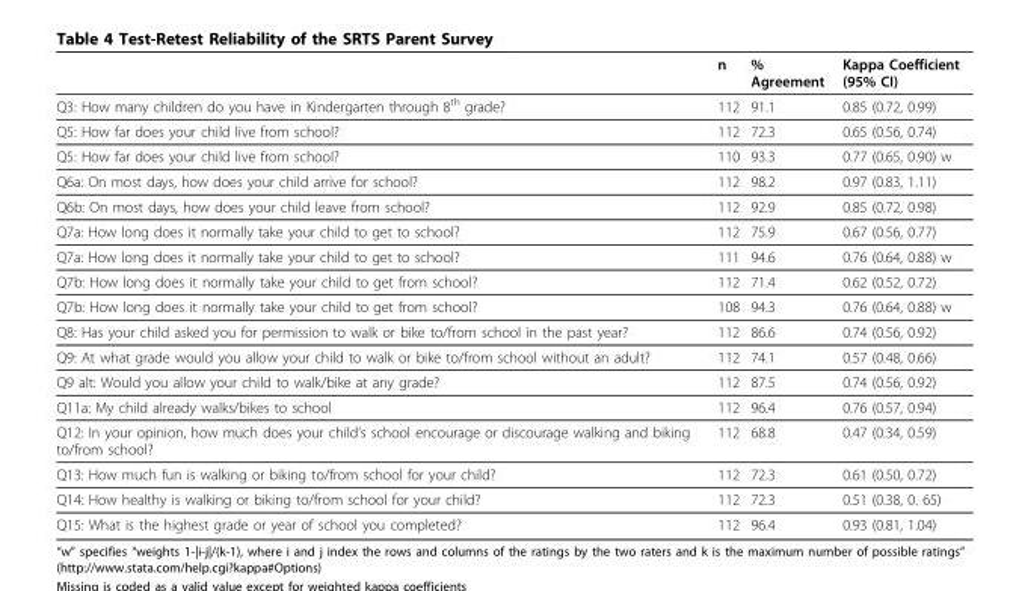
<table><thead><tr><td></td><td>n</td><td>% Agreement</td><td>Kappa Coefficient (95% CI)</td></tr></thead><tbody><tr><td>Q3: How many children do you have in Kindergarten through 8<sup>th</sup> grade?</td><td>112</td><td>91.1</td><td>0.85 (0.72, 0.99)</td></tr><tr><td>Q5: How far does your child live from school?</td><td>112</td><td>72.3</td><td>0.65 (0.56, 0.74)</td></tr><tr><td>Q5: How far does your child live from school?</td><td>110</td><td>93.3</td><td>0.77 (0.65, 0.90) w</td></tr><tr><td>Q6a: On most days, how does your child arrive for school?</td><td>112</td><td>98.2</td><td>0.97 (0.83, 1.11)</td></tr><tr><td>Q6b: On most days, how does your child leave from school?</td><td>112</td><td>92.9</td><td>0.85 (0.72, 0.98)</td></tr><tr><td>Q7a: How long does it normally take your child to get to school?</td><td>112</td><td>75.9</td><td>0.67 (0.56, 0.77)</td></tr><tr><td>Q7a: How long does it normally take your child to get to school?</td><td>111</td><td>94.6</td><td>0.76 (0.64, 0.88) w</td></tr><tr><td>Q7b: How long does it normally take your child to get from school?</td><td>112</td><td>71.4</td><td>0.62 (0.52, 0.72)</td></tr><tr><td>Q7b: How long does it normally take your child to get from school?</td><td>108</td><td>94.3</td><td>0.76 (0.64, 0.88) w</td></tr><tr><td>Q8: Has your child asked you for permission to walk or bike to/from school in the past year?</td><td>112</td><td>86.6</td><td>0.74 (0.56, 0.92)</td></tr><tr><td>Q9: At what grade would you allow your child to walk or bike to/from school without an adult?</td><td>112</td><td>74.1</td><td>0.57 (0.48, 0.66)</td></tr><tr><td>Q9 alt: Would you allow your child to walk/bike at any grade?</td><td>112</td><td>87.5</td><td>0.74 (0.56, 0.92)</td></tr><tr><td>Q11a: My child already walks/bikes to school</td><td>112</td><td>96.4</td><td>0.76 (0.57, 0.94)</td></tr><tr><td>Q12: In your opinion, how much does your child’s school encourage or discourage walking and biking to/from school?</td><td>112</td><td>68.8</td><td>0.47 (0.34, 0.59)</td></tr><tr><td>Q13: How much fun is walking or biking to/from school for your child?</td><td>112</td><td>72.3</td><td>0.61 (0.50, 0.72)</td></tr><tr><td>Q14: How healthy is walking or biking to/from school for your child?</td><td>112</td><td>72.3</td><td>0.51 (0.38, 0. 65)</td></tr><tr><td>Q15: What is the highest grade or year of school you completed?</td><td>112</td><td>96.4</td><td>0.93 (0.81, 1.04)</td></tr></tbody></table>